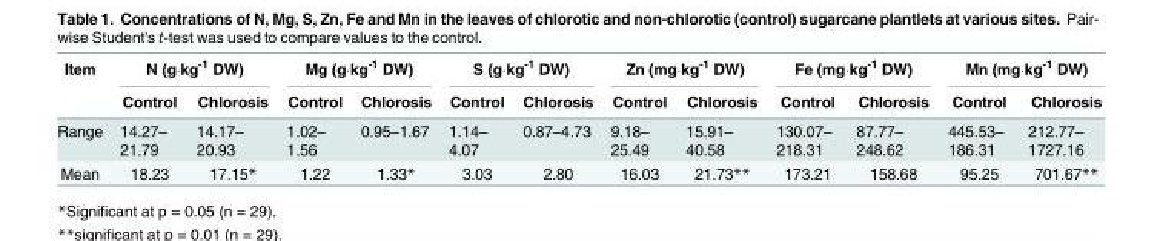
<table><thead><tr><td rowspan="2">Item</td><td colspan="2">N (g·kg<sup>-1</sup> DW)</td><td colspan="2">Mg (g·kg<sup>-1</sup> DW)</td><td colspan="2">S (g·kg<sup>-1</sup> DW)</td><td colspan="2">Zn (mg·kg<sup>-1</sup> DW)</td><td colspan="2">Fe (mg·kg<sup>-1</sup> DW)</td><td colspan="2">Mn (mg·kg<sup>-1</sup> DW)</td></tr><tr><td>Control</td><td>Chlorosis</td><td>Control</td><td>Chlorosis</td><td>Control</td><td>Chlorosis</td><td>Control</td><td>Chlorosis</td><td>Control</td><td>Chlorosis</td><td>Control</td><td>Chlorosis</td></tr></thead><tbody><tr><td>Range</td><td>14.27– 21.79</td><td>14.17– 20.93</td><td>1.02– 1.56</td><td>0.95–1.67</td><td>1.14– 4.07</td><td>0.87–4.73</td><td>9.18– 25.49</td><td>15.91– 40.58</td><td>130.07– 218.31</td><td>87.77– 248.62</td><td>445.53– 186.31</td><td>212.77– 1727.16</td></tr><tr><td>Mean</td><td>18.23</td><td>17.15*</td><td>1.22</td><td>1.33*</td><td>3.03</td><td>2.80</td><td>16.03</td><td>21.73**</td><td>173.21</td><td>158.68</td><td>95.25</td><td>701.67**</td></tr></tbody></table>